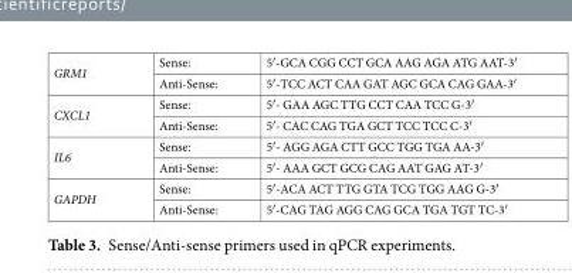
<table><tbody><tr><td rowspan="2">GRM1</td><td>Sense:</td><td>5′-GCA CGG CCT GCA AAG AGA ATG AAT-3′</td></tr><tr><td>Anti-Sense:</td><td>5′-TCC ACT CAA GAT AGC GCA CAG GAA-3′</td></tr><tr><td rowspan="2">CXCL1</td><td>Sense:</td><td>5′- GAA AGC TTG CCT CAA TCC G-3′</td></tr><tr><td>Anti-Sense:</td><td>5′- CAC CAG TGA GCT TCC TCC C-3′</td></tr><tr><td rowspan="2">IL6</td><td>Sense:</td><td>5′- AGG AGA CTT GCC TGG TGA AA-3′</td></tr><tr><td>Anti-Sense:</td><td>5′- AAA GCT GCG CAG AAT GAG AT-3′</td></tr><tr><td rowspan="2">GAPDH</td><td>Sense:</td><td>5′-ACA ACT TTG GTA TCG TGG AAG G-3′</td></tr><tr><td>Anti-Sense:</td><td>5′-CAG TAG AGG CAG GCA TGA TGT TC-3′</td></tr></tbody></table>